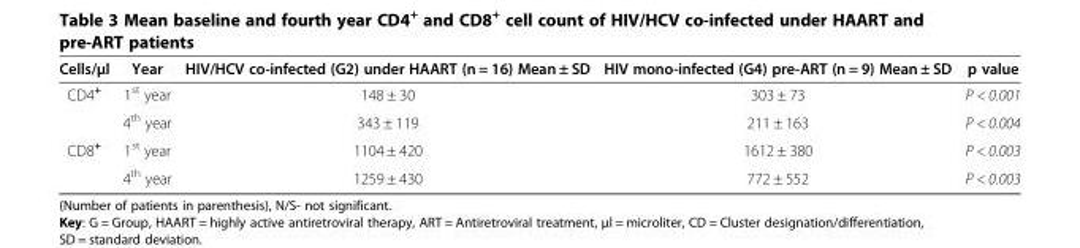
<table><thead><tr><td>Cells/μl</td><td>Year</td><td>HIV/HCV co-infected (G2) under HAART (n = 16) Mean ± SD</td><td>HIV mono-infected (G4) pre-ART (n = 9) Mean ± SD</td><td>p value</td></tr></thead><tbody><tr><td rowspan="2">CD4<sup>+</sup></td><td>1<sup>st</sup> year</td><td>148 ± 30</td><td>303 ± 73</td><td>P &lt; 0.001</td></tr><tr><td>4<sup>th</sup> year</td><td>343 ± 119</td><td>211 ± 163</td><td>P &lt; 0.004</td></tr><tr><td rowspan="2">CD8<sup>+</sup></td><td>1<sup>st</sup> year</td><td>1104 ± 420</td><td>1612 ± 380</td><td>P &lt; 0.003</td></tr><tr><td>4<sup>th</sup> year</td><td>1259 ± 430</td><td>772 ± 552</td><td>P &lt; 0.003</td></tr></tbody></table>